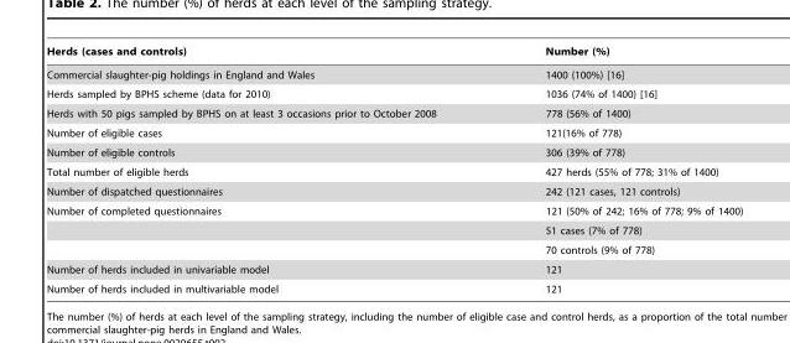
<table><thead><tr><td>Herds (cases and controls)</td><td>Number (%)</td></tr></thead><tbody><tr><td>Commercial slaughter-pig holdings in England and Wales</td><td>1400 (100%) [16]</td></tr><tr><td>Herds sampled by BPHS scheme (data for 2010)</td><td>1036 (74% of 1400) [16]</td></tr><tr><td>Herds with 50 pigs sampled by BPHS on at least 3 occasions prior to October 2008</td><td>778 (56% of 1400)</td></tr><tr><td>Number of eligible cases</td><td>121(16% of 778)</td></tr><tr><td>Number of eligible controls</td><td>306 (39% of 778)</td></tr><tr><td>Total number of eligible herds</td><td>427 herds (55% of 778; 31% of 1400)</td></tr><tr><td>Number of dispatched questionnaires</td><td>242 (121 cases, 121 controls)</td></tr><tr><td rowspan="3">Number of completed questionnaires</td><td>121 (50% of 242; 16% of 778; 9% of 1400)</td></tr><tr><td>51 cases (7% of 778)</td></tr><tr><td>70 controls (9% of 778)</td></tr><tr><td>Number of herds included in univariable model</td><td>121</td></tr><tr><td>Number of herds included in multivariable model</td><td>121</td></tr></tbody></table>